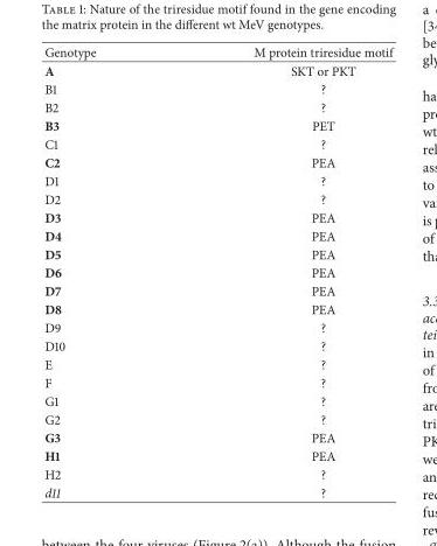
<table><thead><tr><td>Genotype</td><td>M protein triresidue motif</td></tr></thead><tbody><tr><td>A</td><td>SKT or PKT</td></tr><tr><td>B1</td><td>?</td></tr><tr><td>B2</td><td>?</td></tr><tr><td>B3</td><td>PET</td></tr><tr><td>C1</td><td>?</td></tr><tr><td>C2</td><td>PEA</td></tr><tr><td>D1</td><td>?</td></tr><tr><td>D2</td><td>?</td></tr><tr><td>D3</td><td>PEA</td></tr><tr><td>D4</td><td>PEA</td></tr><tr><td>D5</td><td>PEA</td></tr><tr><td>D6</td><td>PEA</td></tr><tr><td>D7</td><td>PEA</td></tr><tr><td>D8</td><td>PEA</td></tr><tr><td>D9</td><td>?</td></tr><tr><td>D10</td><td>?</td></tr><tr><td>E</td><td>?</td></tr><tr><td>F</td><td>?</td></tr><tr><td>G1</td><td>?</td></tr><tr><td>G2</td><td>?</td></tr><tr><td>G3</td><td>PEA</td></tr><tr><td>H1</td><td>PEA</td></tr><tr><td>H2</td><td>?</td></tr><tr><td>d11</td><td>?</td></tr></tbody></table>